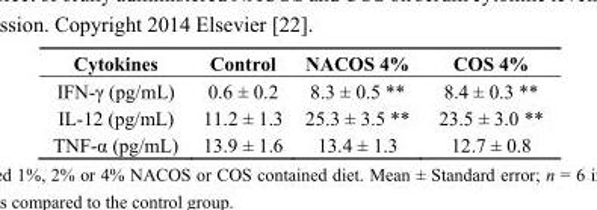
<table><thead><tr><td>Cytokines</td><td>Control</td><td>NACOS 4%</td><td>COS 4%</td></tr></thead><tbody><tr><td>IFN-γ (pg/mL)</td><td>0.6 ± 0.2</td><td>8.3 ± 0.5 **</td><td>8.4 ± 0.3 **</td></tr><tr><td>IL-12 (pg/mL)</td><td>11.2 ± 1.3</td><td>25.3 ± 3.5 **</td><td>23.5 ± 3.0 **</td></tr><tr><td>TNF-α (pg/mL)</td><td>13.9 ± 1.6</td><td>13.4 ± 1.3</td><td>12.7 ± 0.8</td></tr></tbody></table>